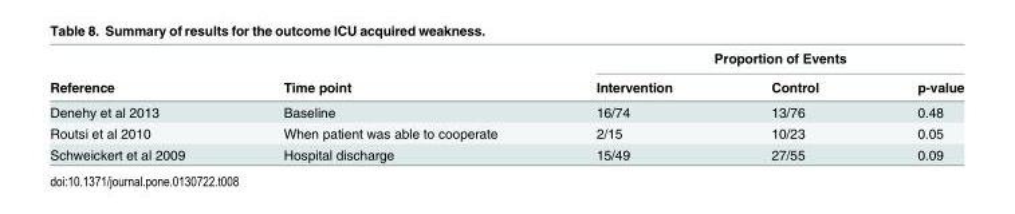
<table><thead><tr><td rowspan="2">Reference</td><td rowspan="2">Time point</td><td colspan="3">Proportion of Events</td></tr><tr><td>Intervention</td><td>Control</td><td>p-value</td></tr></thead><tbody><tr><td>Denehy et al 2013</td><td>Baseline</td><td>16/74</td><td>13/76</td><td>0.48</td></tr><tr><td>Routsi et al 2010</td><td>When patient was able to cooperate</td><td>2/15</td><td>10/23</td><td>0.05</td></tr><tr><td>Schweickert et al 2009</td><td>Hospital discharge</td><td>15/49</td><td>27/55</td><td>0.09</td></tr></tbody></table>